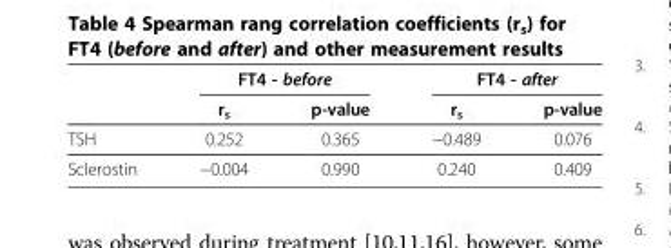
<table><thead><tr><td rowspan="2"></td><td colspan="2">FT4 - before</td><td colspan="2">FT4 - after</td></tr><tr><td>r<sub>s</sub></td><td>p-value</td><td>r<sub>s</sub></td><td>p-value</td></tr></thead><tbody><tr><td>TSH</td><td>0.252</td><td>0.365</td><td>−0.489</td><td>0.076</td></tr><tr><td>Sclerostin</td><td>−0.004</td><td>0.990</td><td>0.240</td><td>0.409</td></tr></tbody></table>